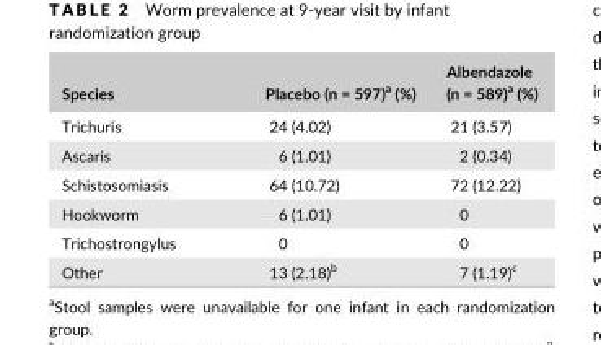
<table><thead><tr><td>Species</td><td>Placebo (n = 597)<sup>a</sup> (%)</td><td>Albendazole (n = 589)<sup>a</sup> (%)</td></tr></thead><tbody><tr><td>Trichuris</td><td>24 (4.02)</td><td>21 (3.57)</td></tr><tr><td>Ascaris</td><td>6 (1.01)</td><td>2 (0.34)</td></tr><tr><td>Schistosomiasis</td><td>64 (10.72)</td><td>72 (12.22)</td></tr><tr><td>Hookworm</td><td>6 (1.01)</td><td>0</td></tr><tr><td>Trichostrongylus</td><td>0</td><td>0</td></tr><tr><td>Other</td><td>13 (2.18)<sup>b</sup></td><td>7 (1.19)<sup>c</sup></td></tr></tbody></table>